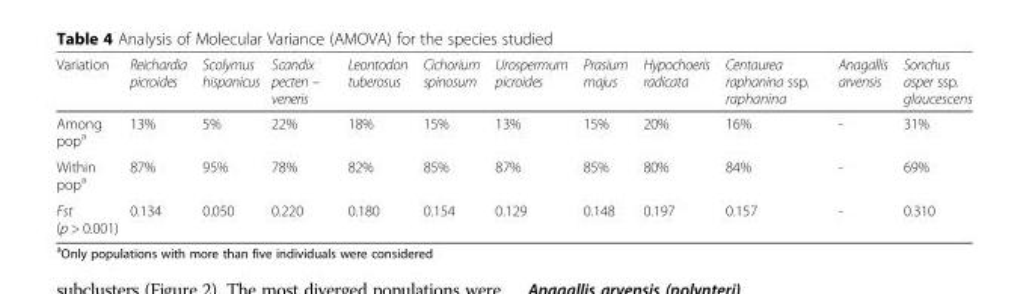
<table><thead><tr><td>Variation</td><td>Reichardia picroides</td><td>Scolymus hispanicus</td><td>Scandix pecten – veneris</td><td>Leontodon tuberosus</td><td>Cichorium spinosum</td><td>Urospermum picroides</td><td>Prasium majus</td><td>Hypochoeris radicata</td><td>Centaurea raphanina ssp. raphanina</td><td>Anagallis arvensis</td><td>Sonchus asper ssp. glaucescens</td></tr></thead><tbody><tr><td>Among pop<sup>a</sup></td><td>13%</td><td>5%</td><td>22%</td><td>18%</td><td>15%</td><td>13%</td><td>15%</td><td>20%</td><td>16%</td><td>-</td><td>31%</td></tr><tr><td>Within pop<sup>a</sup></td><td>87%</td><td>95%</td><td>78%</td><td>82%</td><td>85%</td><td>87%</td><td>85%</td><td>80%</td><td>84%</td><td>-</td><td>69%</td></tr><tr><td>Fst (p &gt; 0.001)</td><td>0.134</td><td>0.050</td><td>0.220</td><td>0.180</td><td>0.154</td><td>0.129</td><td>0.148</td><td>0.197</td><td>0.157</td><td>-</td><td>0.310</td></tr></tbody></table>